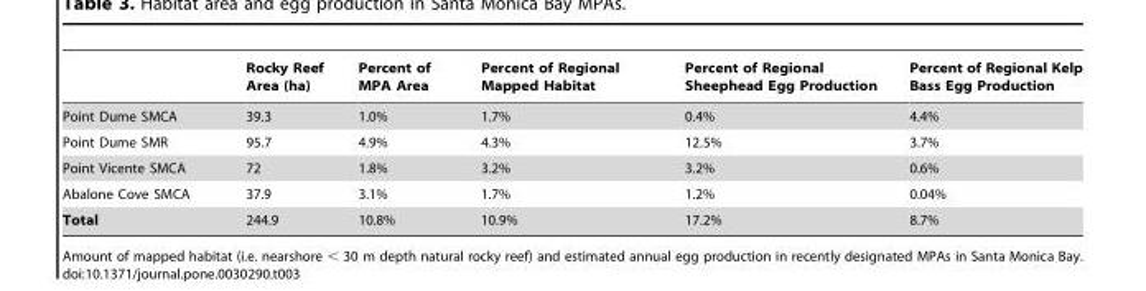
<table><thead><tr><td></td><td>Rocky Reef Area (ha)</td><td>Percent of MPA Area</td><td>Percent of Regional Mapped Habitat</td><td>Percent of Regional Sheephead Egg Production</td><td>Percent of Regional Kelp Bass Egg Production</td></tr></thead><tbody><tr><td>Point Dume SMCA</td><td>39.3</td><td>1.0%</td><td>1.7%</td><td>0.4%</td><td>4.4%</td></tr><tr><td>Point Dume SMR</td><td>95.7</td><td>4.9%</td><td>4.3%</td><td>12.5%</td><td>3.7%</td></tr><tr><td>Point Vicente SMCA</td><td>72</td><td>1.8%</td><td>3.2%</td><td>3.2%</td><td>0.6%</td></tr><tr><td>Abalone Cove SMCA</td><td>37.9</td><td>3.1%</td><td>1.7%</td><td>1.2%</td><td>0.04%</td></tr><tr><td>Total</td><td>244.9</td><td>10.8%</td><td>10.9%</td><td>17.2%</td><td>8.7%</td></tr></tbody></table>